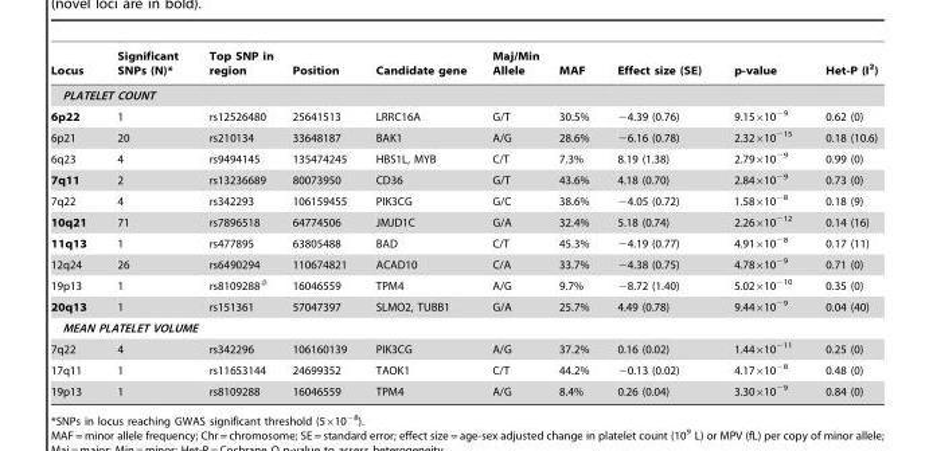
<table><thead><tr><td>Locus</td><td>Significant SNPs (N)*</td><td>Top SNP in region</td><td>Position</td><td>Candidate gene</td><td>Maj/Min Allele</td><td>MAF</td><td>Effect size (SE)</td><td>p-value</td><td>Het-P (I<sup>2</sup>)</td></tr></thead><tbody><tr><td colspan="10">PLATELET COUNT</td></tr><tr><td>6p22</td><td>1</td><td>rs12526480</td><td>25641513</td><td>LRRC16A</td><td>G/T</td><td>30.5%</td><td>−4.39 (0.76)</td><td>9.15×10<sup>−9</sup></td><td>0.62 (0)</td></tr><tr><td>6p21</td><td>20</td><td>rs210134</td><td>33648187</td><td>BAK1</td><td>A/G</td><td>28.6%</td><td>−6.16 (0.78)</td><td>2.32×10<sup>−15</sup></td><td>0.18 (10.6)</td></tr><tr><td>6q23</td><td>4</td><td>rs9494145</td><td>135474245</td><td>HBS1L, MYB</td><td>C/T</td><td>7.3%</td><td>8.19 (1.38)</td><td>2.79×10<sup>−9</sup></td><td>0.99 (0)</td></tr><tr><td>7q11</td><td>2</td><td>rs13236689</td><td>80073950</td><td>CD36</td><td>G/T</td><td>43.6%</td><td>4.18 (0.70)</td><td>2.84×10<sup>−9</sup></td><td>0.73 (0)</td></tr><tr><td>7q22</td><td>4</td><td>rs342293</td><td>106159455</td><td>PIK3CG</td><td>G/C</td><td>38.6%</td><td>−4.05 (0.72)</td><td>1.58×10<sup>−8</sup></td><td>0.18 (9)</td></tr><tr><td>10q21</td><td>71</td><td>rs7896518</td><td>64774506</td><td>JMJD1C</td><td>G/A</td><td>32.4%</td><td>5.18 (0.74)</td><td>2.26×10<sup>−12</sup></td><td>0.14 (16)</td></tr><tr><td>11q13</td><td>1</td><td>rs477895</td><td>63805488</td><td>BAD</td><td>C/T</td><td>45.3%</td><td>−4.19 (0.77)</td><td>4.91×10<sup>−8</sup></td><td>0.17 (11)</td></tr><tr><td>12q24</td><td>26</td><td>rs6490294</td><td>110674821</td><td>ACAD10</td><td>C/A</td><td>33.7%</td><td>−4.38 (0.75)</td><td>4.78×10<sup>−9</sup></td><td>0.71 (0)</td></tr><tr><td>19p13</td><td>1</td><td>rs8109288#</td><td>16046559</td><td>TPM4</td><td>A/G</td><td>9.7%</td><td>−8.72 (1.40)</td><td>5.02×10<sup>−10</sup></td><td>0.35 (0)</td></tr><tr><td>20q13</td><td>1</td><td>rs151361</td><td>57047397</td><td>SLMO2, TUBB1</td><td>G/A</td><td>25.7%</td><td>4.49 (0.78)</td><td>9.44×10<sup>−9</sup></td><td>0.04 (40)</td></tr><tr><td colspan="10">MEAN PLATELET VOLUME</td></tr><tr><td>7q22</td><td>4</td><td>rs342296</td><td>106160139</td><td>PIK3CG</td><td>A/G</td><td>37.2%</td><td>0.16 (0.02)</td><td>1.44×10<sup>−11</sup></td><td>0.25 (0)</td></tr><tr><td>17q11</td><td>1</td><td>rs11653144</td><td>24699352</td><td>TAOK1</td><td>C/T</td><td>44.2%</td><td>−0.13 (0.02)</td><td>4.17×10<sup>−8</sup></td><td>0.48 (0)</td></tr><tr><td>19p13</td><td>1</td><td>rs8109288</td><td>16046559</td><td>TPM4</td><td>A/G</td><td>8.4%</td><td>0.26 (0.04)</td><td>3.30×10<sup>−9</sup></td><td>0.84 (0)</td></tr></tbody></table>